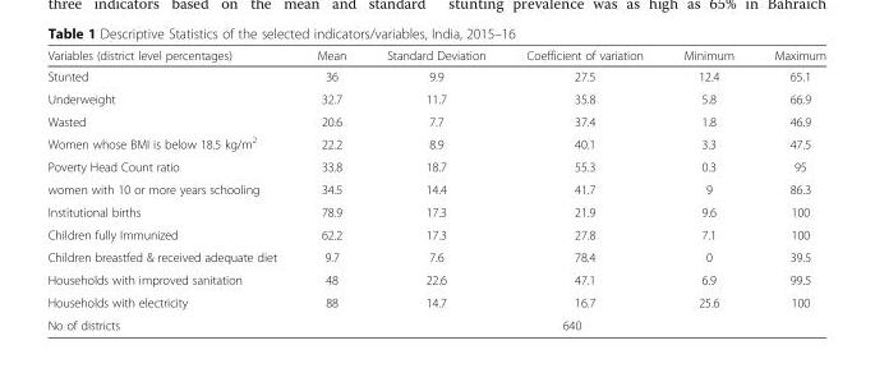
<table><thead><tr><td>Variables (district level percentages)</td><td>Mean</td><td>Standard Deviation</td><td>Coefficient of variation</td><td>Minimum</td><td>Maximum</td></tr></thead><tbody><tr><td>Stunted</td><td>36</td><td>9.9</td><td>27.5</td><td>12.4</td><td>65.1</td></tr><tr><td>Underweight</td><td>32.7</td><td>11.7</td><td>35.8</td><td>5.8</td><td>66.9</td></tr><tr><td>Wasted</td><td>20.6</td><td>7.7</td><td>37.4</td><td>1.8</td><td>46.9</td></tr><tr><td>Women whose BMI is below 18.5 kg/m<sup>2</sup></td><td>22.2</td><td>8.9</td><td>40.1</td><td>3.3</td><td>47.5</td></tr><tr><td>Poverty Head Count ratio</td><td>33.8</td><td>18.7</td><td>55.3</td><td>0.3</td><td>95</td></tr><tr><td>women with 10 or more years schooling</td><td>34.5</td><td>14.4</td><td>41.7</td><td>9</td><td>86.3</td></tr><tr><td>Institutional births</td><td>78.9</td><td>17.3</td><td>21.9</td><td>9.6</td><td>100</td></tr><tr><td>Children fully Immunized</td><td>62.2</td><td>17.3</td><td>27.8</td><td>7.1</td><td>100</td></tr><tr><td>Children breastfed &amp; received adequate diet</td><td>9.7</td><td>7.6</td><td>78.4</td><td>0</td><td>39.5</td></tr><tr><td>Households with improved sanitation</td><td>48</td><td>22.6</td><td>47.1</td><td>6.9</td><td>99.5</td></tr><tr><td>Households with electricity</td><td>88</td><td>14.7</td><td>16.7</td><td>25.6</td><td>100</td></tr><tr><td>No of districts</td><td colspan="5">640</td></tr></tbody></table>